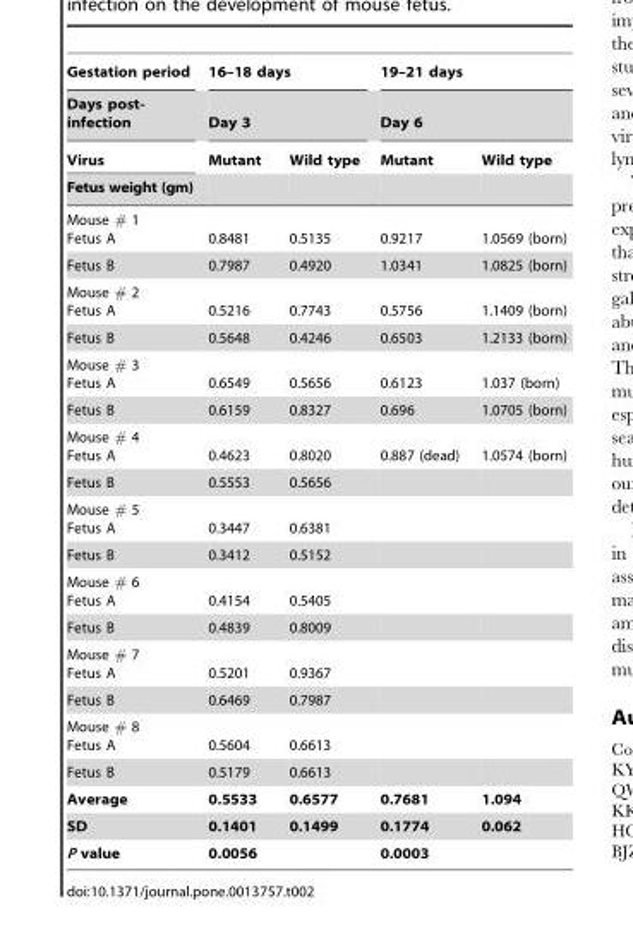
<table><thead><tr><td rowspan="4">Gestation period Days post- infection Virus Fetus weight (gm)</td><td rowspan="2" colspan="2">16–18 days Day 3</td><td rowspan="2" colspan="2">19–21 days Day 6</td></tr><tr></tr><tr><td rowspan="2">Mutant</td><td rowspan="2">Wild type</td><td rowspan="2">Mutant</td><td rowspan="2">Wild type</td></tr><tr></tr></thead><tbody><tr><td>Mouse # 1 Fetus A</td><td>0.8481</td><td>0.5135</td><td>0.9217</td><td>1.0569 (born)</td></tr><tr><td>Fetus B</td><td>0.7987</td><td>0.4920</td><td>1.0341</td><td>1.0825 (born)</td></tr><tr><td>Mouse # 2 Fetus A</td><td>0.5216</td><td>0.7743</td><td>0.5756</td><td>1.1409 (born)</td></tr><tr><td>Fetus B</td><td>0.5648</td><td>0.4246</td><td>0.6503</td><td>1.2133 (born)</td></tr><tr><td>Mouse # 3 Fetus A</td><td>0.6549</td><td>0.5656</td><td>0.6123</td><td>1.037 (born)</td></tr><tr><td>Fetus B</td><td>0.6159</td><td>0.8327</td><td>0.696</td><td>1.0705 (born)</td></tr><tr><td>Mouse # 4 Fetus A</td><td>0.4623</td><td>0.8020</td><td>0.887 (dead)</td><td>1.0574 (born)</td></tr><tr><td>Fetus B</td><td>0.5553</td><td>0.5656</td><td></td><td></td></tr><tr><td>Mouse # 5 Fetus A</td><td>0.3447</td><td>0.6381</td><td></td><td></td></tr><tr><td>Fetus B</td><td>0.3412</td><td>0.5152</td><td></td><td></td></tr><tr><td>Mouse # 6 Fetus A</td><td>0.4154</td><td>0.5405</td><td></td><td></td></tr><tr><td>Fetus B</td><td>0.4839</td><td>0.8009</td><td></td><td></td></tr><tr><td>Mouse # 7 Fetus A</td><td>0.5201</td><td>0.9367</td><td></td><td></td></tr><tr><td>Fetus B</td><td>0.6469</td><td>0.7987</td><td></td><td></td></tr><tr><td>Mouse # 8 Fetus A</td><td>0.5604</td><td>0.6613</td><td></td><td></td></tr><tr><td>Fetus B</td><td>0.5179</td><td>0.6613</td><td></td><td></td></tr><tr><td>Average</td><td>0.5533</td><td>0.6577</td><td>0.7681</td><td>1.094</td></tr><tr><td>SD</td><td>0.1401</td><td>0.1499</td><td>0.1774</td><td>0.062</td></tr><tr><td>P value</td><td>0.0056</td><td></td><td>0.0003</td><td></td></tr></tbody></table>